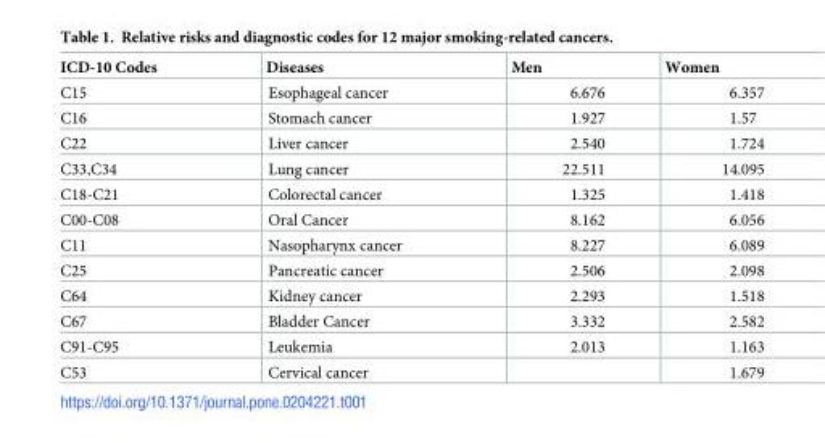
<table><thead><tr><td>ICD-10 Codes</td><td>Diseases</td><td>Men</td><td>Women</td></tr></thead><tbody><tr><td>C15</td><td>Esophageal cancer</td><td>6.676</td><td>6.357</td></tr><tr><td>C16</td><td>Stomach cancer</td><td>1.927</td><td>1.57</td></tr><tr><td>C22</td><td>Liver cancer</td><td>2.540</td><td>1.724</td></tr><tr><td>C33,C34</td><td>Lung cancer</td><td>22.511</td><td>14.095</td></tr><tr><td>C18-C21</td><td>Colorectal cancer</td><td>1.325</td><td>1.418</td></tr><tr><td>C00-C08</td><td>Oral Cancer</td><td>8.162</td><td>6.056</td></tr><tr><td>C11</td><td>Nasopharynx cancer</td><td>8.227</td><td>6.089</td></tr><tr><td>C25</td><td>Pancreatic cancer</td><td>2.506</td><td>2.098</td></tr><tr><td>C64</td><td>Kidney cancer</td><td>2.293</td><td>1.518</td></tr><tr><td>C67</td><td>Bladder Cancer</td><td>3.332</td><td>2.582</td></tr><tr><td>C91-C95</td><td>Leukemia</td><td>2.013</td><td>1.163</td></tr><tr><td>C53</td><td>Cervical cancer</td><td></td><td>1.679</td></tr></tbody></table>